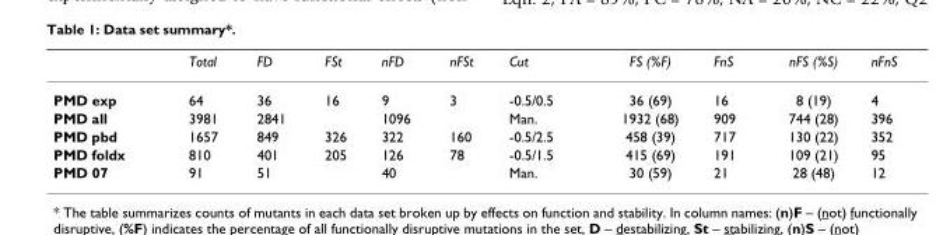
<table><thead><tr><td></td><td>Total</td><td>FD</td><td>FSt</td><td>nFD</td><td>nFSt</td><td>Cut</td><td>FS (%F)</td><td>FnS</td><td>nFS (%S)</td><td>nFnS</td></tr></thead><tbody><tr><td>PMD exp</td><td>64</td><td>36</td><td>16</td><td>9</td><td>3</td><td>-0.5/0.5</td><td>36 (69)</td><td>16</td><td>8 (19)</td><td>4</td></tr><tr><td>PMD all</td><td>3981</td><td>2841</td><td></td><td>1096</td><td></td><td>Man.</td><td>1932 (68)</td><td>909</td><td>744 (28)</td><td>396</td></tr><tr><td>PMD pbd</td><td>1657</td><td>849</td><td>326</td><td>322</td><td>160</td><td>-0.5/2.5</td><td>458 (39)</td><td>717</td><td>130 (22)</td><td>352</td></tr><tr><td>PMD foldx</td><td>810</td><td>401</td><td>205</td><td>126</td><td>78</td><td>-0.5/1.5</td><td>415 (69)</td><td>191</td><td>109 (21)</td><td>95</td></tr><tr><td>PMD 07</td><td>91</td><td>51</td><td></td><td>40</td><td></td><td>Man.</td><td>30 (59)</td><td>21</td><td>28 (48)</td><td>12</td></tr></tbody></table>